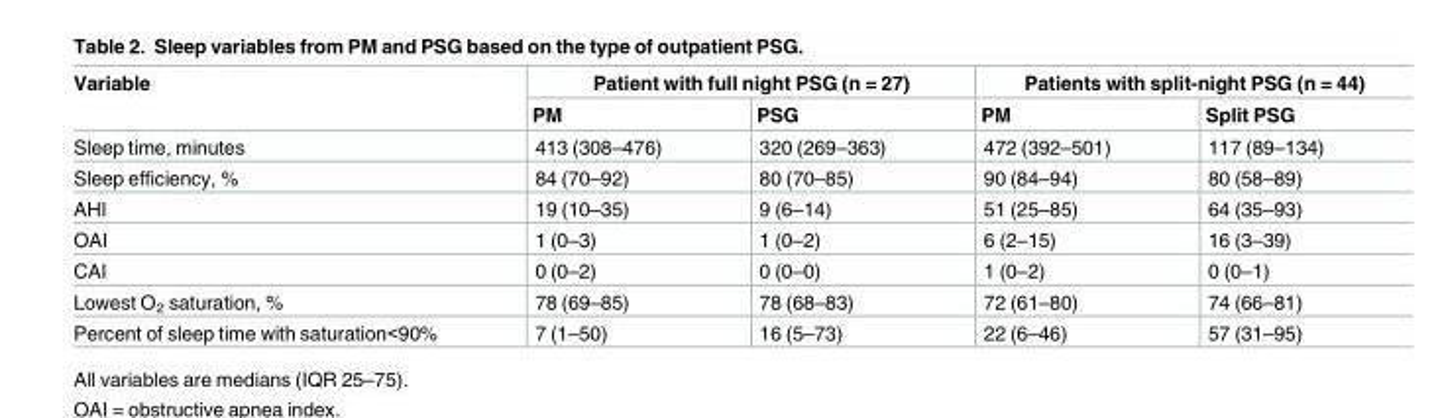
<table><thead><tr><td rowspan="2">Variable</td><td colspan="2">Patient with full night PSG (n = 27)</td><td colspan="2">Patients with split-night PSG (n = 44)</td></tr><tr><td>PM</td><td>PSG</td><td>PM</td><td>Split PSG</td></tr></thead><tbody><tr><td>Sleep time, minutes</td><td>413 (308–476)</td><td>320 (269–363)</td><td>472 (392–501)</td><td>117 (89–134)</td></tr><tr><td>Sleep efficiency, %</td><td>84 (70–92)</td><td>80 (70–85)</td><td>90 (84–94)</td><td>80 (58–89)</td></tr><tr><td>AHI</td><td>19 (10–35)</td><td>9 (6–14)</td><td>51 (25–85)</td><td>64 (35–93)</td></tr><tr><td>OAI</td><td>1 (0–3)</td><td>1 (0–2)</td><td>6 (2–15)</td><td>16 (3–39)</td></tr><tr><td>CAI</td><td>0 (0–2)</td><td>0 (0–0)</td><td>1 (0–2)</td><td>0 (0–1)</td></tr><tr><td>Lowest O<sub>2</sub> saturation, %</td><td>78 (69–85)</td><td>78 (68–83)</td><td>72 (61–80)</td><td>74 (66–81)</td></tr><tr><td>Percent of sleep time with saturation&lt;90%</td><td>7 (1–50)</td><td>16 (5–73)</td><td>22 (6–46)</td><td>57 (31–95)</td></tr></tbody></table>